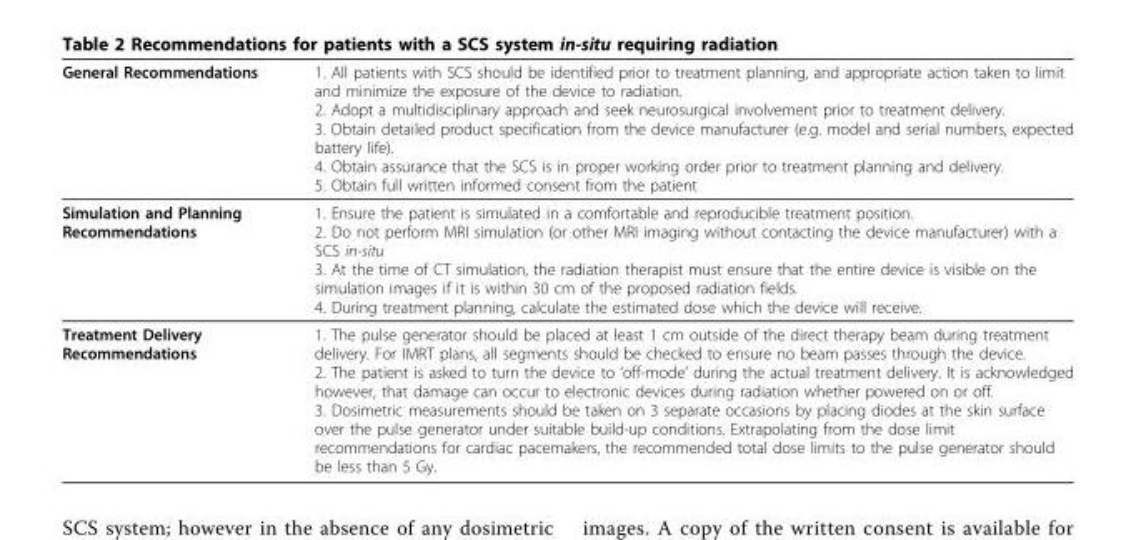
<table><thead><tr><td>General Recommendations</td><td>1. All patients with SCS should be identified prior to treatment planning, and appropriate action taken to limit and minimize the exposure of the device to radiation. 2. Adopt a multidisciplinary approach and seek neurosurgical involvement prior to treatment delivery. 3. Obtain detailed product specification from the device manufacturer (e.g. model and serial numbers, expected battery life). 4. Obtain assurance that the SCS is in proper working order prior to treatment planning and delivery. 5. Obtain full written informed consent from the patient</td></tr></thead><tbody><tr><td>Simulation and Planning Recommendations</td><td>1. Ensure the patient is simulated in a comfortable and reproducible treatment position. 2. Do not perform MRI simulation (or other MRI imaging without contacting the device manufacturer) with a SCS in-situ 3. At the time of CT simulation, the radiation therapist must ensure that the entire device is visible on the simulation images if it is within 30 cm of the proposed radiation fields. 4. During treatment planning, calculate the estimated dose which the device will receive.</td></tr><tr><td>Treatment Delivery Recommendations</td><td>1. The pulse generator should be placed at least 1 cm outside of the direct therapy beam during treatment delivery. For IMRT plans, all segments should be checked to ensure no beam passes through the device. 2. The patient is asked to turn the device to ‘off-mode’ during the actual treatment delivery. It is acknowledged however, that damage can occur to electronic devices during radiation whether powered on or off. 3. Dosimetric measurements should be taken on 3 separate occasions by placing diodes at the skin surface over the pulse generator under suitable build-up conditions. Extrapolating from the dose limit recommendations for cardiac pacemakers, the recommended total dose limits to the pulse generator should be less than 5 Gy.</td></tr></tbody></table>